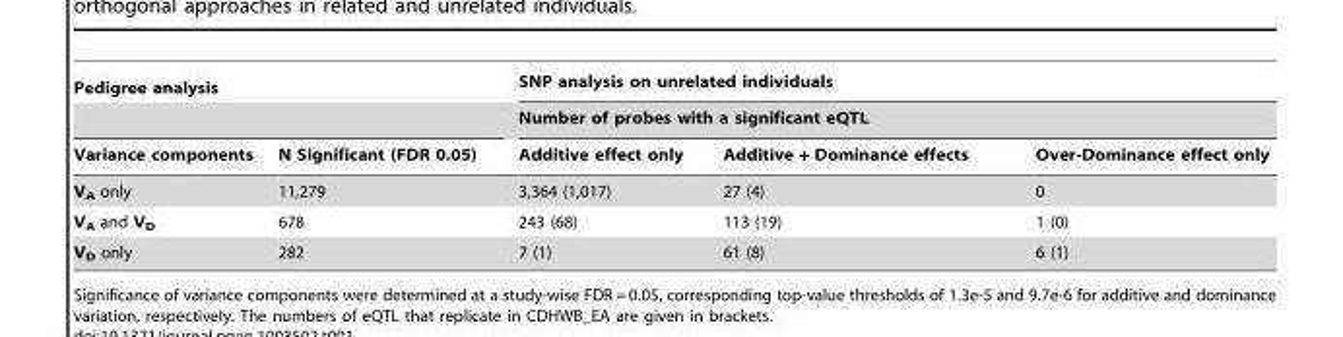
<table><thead><tr><td colspan="2">Pedigree analysis</td><td rowspan="2" colspan="3">SNP analysis on unrelated individuals Number of probes with a significant eQTL</td></tr><tr><td rowspan="2">Variance components</td><td rowspan="2">N Significant (FDR 0.05)</td></tr><tr><td>Additive effect only</td><td>Additive + Dominance effects</td><td>Over-Dominance effect only</td></tr></thead><tbody><tr><td>V<sub>A</sub> only</td><td>11,279</td><td>3,364 (1,017)</td><td>27 (4)</td><td>0</td></tr><tr><td>V<sub>A</sub> and V<sub>D</sub></td><td>678</td><td>243 (68)</td><td>113 (19)</td><td>1 (0)</td></tr><tr><td>V<sub>D</sub> only</td><td>282</td><td>7 (1)</td><td>61 (8)</td><td>6 (1)</td></tr></tbody></table>